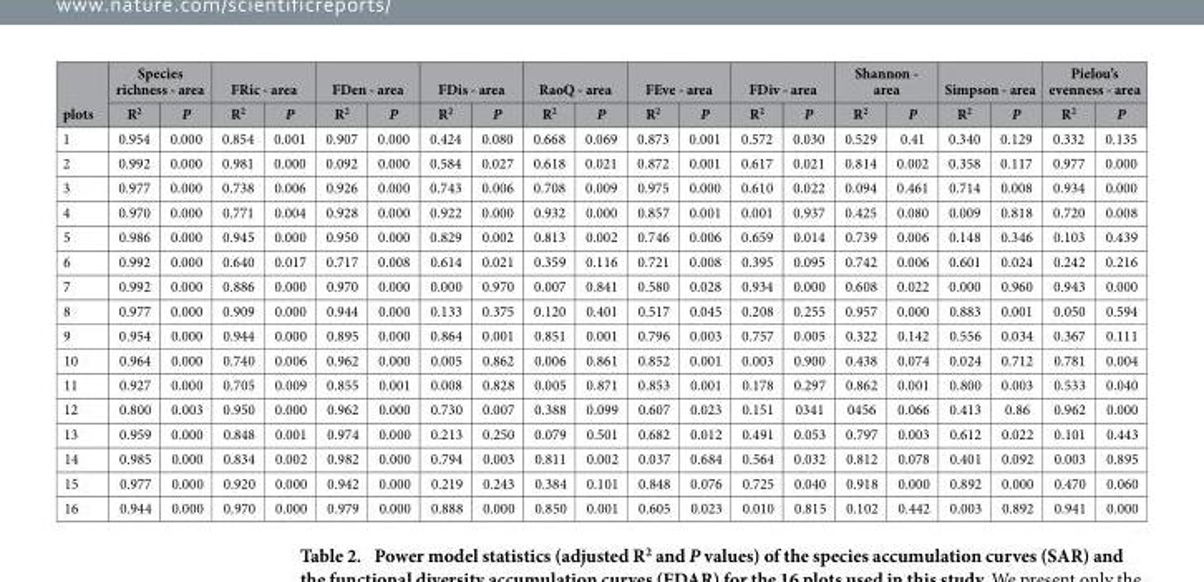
<table><thead><tr><td rowspan="2">plots</td><td colspan="2">Species richness - area</td><td colspan="2">FRic - area</td><td colspan="2">FDen - area</td><td colspan="2">FDis - area</td><td colspan="2">RaoQ - area</td><td colspan="2">FEve - area</td><td colspan="2">FDiv - area</td><td colspan="2">Shannon - area</td><td colspan="2">Simpson - area</td><td colspan="2">Pielou’s evenness - area</td></tr><tr><td>R<sup>2</sup></td><td>P</td><td>R<sup>2</sup></td><td>P</td><td>R<sup>2</sup></td><td>P</td><td>R<sup>2</sup></td><td>P</td><td>R<sup>2</sup></td><td>P</td><td>R<sup>2</sup></td><td>P</td><td>R<sup>2</sup></td><td>P</td><td>R<sup>2</sup></td><td>P</td><td>R<sup>2</sup></td><td>P</td><td>R<sup>2</sup></td><td>P</td></tr></thead><tbody><tr><td>1</td><td>0.954</td><td>0.000</td><td>0.854</td><td>0.001</td><td>0.907</td><td>0.000</td><td>0.424</td><td>0.080</td><td>0.668</td><td>0.069</td><td>0.873</td><td>0.001</td><td>0.572</td><td>0.030</td><td>0.529</td><td>0.41</td><td>0.340</td><td>0.129</td><td>0.332</td><td>0.135</td></tr><tr><td>2</td><td>0.992</td><td>0.000</td><td>0.981</td><td>0.000</td><td>0.092</td><td>0.000</td><td>0.584</td><td>0.027</td><td>0.618</td><td>0.021</td><td>0.872</td><td>0.001</td><td>0.617</td><td>0.021</td><td>0.814</td><td>0.002</td><td>0.358</td><td>0.117</td><td>0.977</td><td>0.000</td></tr><tr><td>3</td><td>0.977</td><td>0.000</td><td>0.738</td><td>0.006</td><td>0.926</td><td>0.000</td><td>0.743</td><td>0.006</td><td>0.708</td><td>0.009</td><td>0.975</td><td>0.000</td><td>0.610</td><td>0.022</td><td>0.094</td><td>0.461</td><td>0.714</td><td>0.008</td><td>0.934</td><td>0.000</td></tr><tr><td>4</td><td>0.970</td><td>0.000</td><td>0.771</td><td>0.004</td><td>0.928</td><td>0.000</td><td>0.922</td><td>0.000</td><td>0.932</td><td>0.000</td><td>0.857</td><td>0.001</td><td>0.001</td><td>0.937</td><td>0.425</td><td>0.080</td><td>0.009</td><td>0.818</td><td>0.720</td><td>0.008</td></tr><tr><td>5</td><td>0.986</td><td>0.000</td><td>0.945</td><td>0.000</td><td>0.950</td><td>0.000</td><td>0.829</td><td>0.002</td><td>0.813</td><td>0.002</td><td>0.746</td><td>0.006</td><td>0.659</td><td>0.014</td><td>0.739</td><td>0.006</td><td>0.148</td><td>0.346</td><td>0.103</td><td>0.439</td></tr><tr><td>6</td><td>0.992</td><td>0.000</td><td>0.640</td><td>0.017</td><td>0.717</td><td>0.008</td><td>0.614</td><td>0.021</td><td>0.359</td><td>0.116</td><td>0.721</td><td>0.008</td><td>0.395</td><td>0.095</td><td>0.742</td><td>0.006</td><td>0.601</td><td>0.024</td><td>0.242</td><td>0.216</td></tr><tr><td>7</td><td>0.992</td><td>0.000</td><td>0.886</td><td>0.000</td><td>0.970</td><td>0.000</td><td>0.000</td><td>0.970</td><td>0.007</td><td>0.841</td><td>0.580</td><td>0.028</td><td>0.934</td><td>0.000</td><td>0.608</td><td>0.022</td><td>0.000</td><td>0.960</td><td>0.943</td><td>0.000</td></tr><tr><td>8</td><td>0.977</td><td>0.000</td><td>0.909</td><td>0.000</td><td>0.944</td><td>0.000</td><td>0.133</td><td>0.375</td><td>0.120</td><td>0.401</td><td>0.517</td><td>0.045</td><td>0.208</td><td>0.255</td><td>0.957</td><td>0.000</td><td>0.883</td><td>0.001</td><td>0.050</td><td>0.594</td></tr><tr><td>9</td><td>0.954</td><td>0.000</td><td>0.944</td><td>0.000</td><td>0.895</td><td>0.000</td><td>0.864</td><td>0.001</td><td>0.851</td><td>0.001</td><td>0.796</td><td>0.003</td><td>0.757</td><td>0.005</td><td>0.322</td><td>0.142</td><td>0.556</td><td>0.034</td><td>0.367</td><td>0.111</td></tr><tr><td>10</td><td>0.964</td><td>0.000</td><td>0.740</td><td>0.006</td><td>0.962</td><td>0.000</td><td>0.005</td><td>0.862</td><td>0.006</td><td>0.861</td><td>0.852</td><td>0.001</td><td>0.003</td><td>0.900</td><td>0.438</td><td>0.074</td><td>0.024</td><td>0.712</td><td>0.781</td><td>0.004</td></tr><tr><td>11</td><td>0.927</td><td>0.000</td><td>0.705</td><td>0.009</td><td>0.855</td><td>0.001</td><td>0.008</td><td>0.828</td><td>0.005</td><td>0.871</td><td>0.853</td><td>0.001</td><td>0.178</td><td>0.297</td><td>0.862</td><td>0.001</td><td>0.800</td><td>0.003</td><td>0.533</td><td>0.040</td></tr><tr><td>12</td><td>0.800</td><td>0.003</td><td>0.950</td><td>0.000</td><td>0.962</td><td>0.000</td><td>0.730</td><td>0.007</td><td>0.388</td><td>0.099</td><td>0.607</td><td>0.023</td><td>0.151</td><td>0341</td><td>0456</td><td>0.066</td><td>0.413</td><td>0.86</td><td>0.962</td><td>0.000</td></tr><tr><td>13</td><td>0.959</td><td>0.000</td><td>0.848</td><td>0.001</td><td>0.974</td><td>0.000</td><td>0.213</td><td>0.250</td><td>0.079</td><td>0.501</td><td>0.682</td><td>0.012</td><td>0.491</td><td>0.053</td><td>0.797</td><td>0.003</td><td>0.612</td><td>0.022</td><td>0.101</td><td>0.443</td></tr><tr><td>14</td><td>0.985</td><td>0.000</td><td>0.834</td><td>0.002</td><td>0.982</td><td>0.000</td><td>0.794</td><td>0.003</td><td>0.811</td><td>0.002</td><td>0.037</td><td>0.684</td><td>0.564</td><td>0.032</td><td>0.812</td><td>0.078</td><td>0.401</td><td>0.092</td><td>0.003</td><td>0.895</td></tr><tr><td>15</td><td>0.977</td><td>0.000</td><td>0.920</td><td>0.000</td><td>0.942</td><td>0.000</td><td>0.219</td><td>0.243</td><td>0.384</td><td>0.101</td><td>0.848</td><td>0.076</td><td>0.725</td><td>0.040</td><td>0.918</td><td>0.000</td><td>0.892</td><td>0.000</td><td>0.470</td><td>0.060</td></tr><tr><td>16</td><td>0.944</td><td>0.000</td><td>0.970</td><td>0.000</td><td>0.979</td><td>0.000</td><td>0.888</td><td>0.000</td><td>0.850</td><td>0.001</td><td>0.605</td><td>0.023</td><td>0.010</td><td>0.815</td><td>0.102</td><td>0.442</td><td>0.003</td><td>0.892</td><td>0.941</td><td>0.000</td></tr></tbody></table>